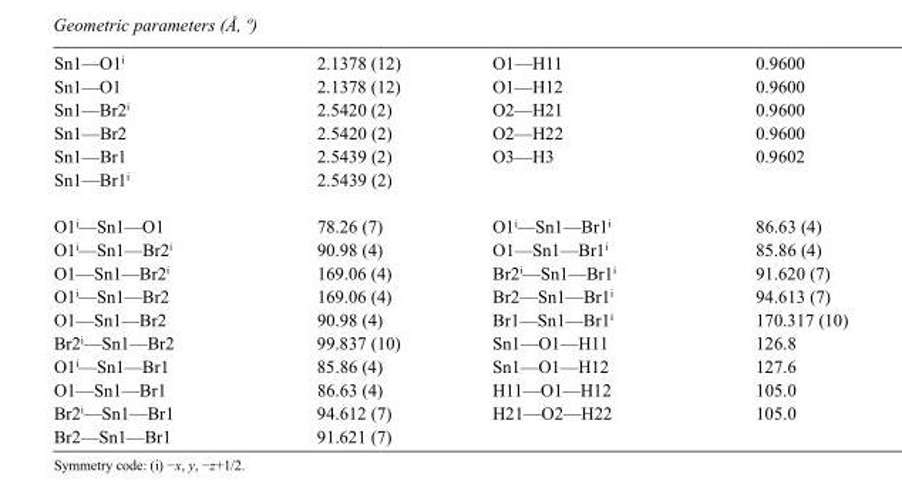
<table><tbody><tr><td>Sn1—O1<sup>i</sup></td><td>2.1378 (12)</td><td>O1—H11</td><td>0.9600</td></tr><tr><td>Sn1—O1</td><td>2.1378 (12)</td><td>O1—H12</td><td>0.9600</td></tr><tr><td>Sn1—Br2<sup>i</sup></td><td>2.5420 (2)</td><td>O2—H21</td><td>0.9600</td></tr><tr><td>Sn1—Br2</td><td>2.5420 (2)</td><td>O2—H22</td><td>0.9600</td></tr><tr><td>Sn1—Br1</td><td>2.5439 (2)</td><td>O3—H3</td><td>0.9602</td></tr><tr><td>Sn1—Br1<sup>i</sup></td><td>2.5439 (2)</td><td></td><td></td></tr><tr><td>O1<sup>i</sup>—Sn1—O1</td><td>78.26 (7)</td><td>O1<sup>i</sup>—Sn1—Br1<sup>i</sup></td><td>86.63 (4)</td></tr><tr><td>O1<sup>i</sup>—Sn1—Br2<sup>i</sup></td><td>90.98 (4)</td><td>O1—Sn1—Br1<sup>i</sup></td><td>85.86 (4)</td></tr><tr><td>O1—Sn1—Br2<sup>i</sup></td><td>169.06 (4)</td><td>Br2<sup>i</sup>—Sn1—Br1<sup>i</sup></td><td>91.620 (7)</td></tr><tr><td>O1<sup>i</sup>—Sn1—Br2</td><td>169.06 (4)</td><td>Br2—Sn1—Br1<sup>i</sup></td><td>94.613 (7)</td></tr><tr><td>O1—Sn1—Br2</td><td>90.98 (4)</td><td>Br1—Sn1—Br1<sup>i</sup></td><td>170.317 (10)</td></tr><tr><td>Br2<sup>i</sup>—Sn1—Br2</td><td>99.837 (10)</td><td>Sn1—O1—H11</td><td>126.8</td></tr><tr><td>O1<sup>i</sup>—Sn1—Br1</td><td>85.86 (4)</td><td>Sn1—O1—H12</td><td>127.6</td></tr><tr><td>O1—Sn1—Br1</td><td>86.63 (4)</td><td>H11—O1—H12</td><td>105.0</td></tr><tr><td>Br2<sup>i</sup>—Sn1—Br1</td><td>94.612 (7)</td><td>H21—O2—H22</td><td>105.0</td></tr><tr><td>Br2—Sn1—Br1</td><td>91.621 (7)</td><td></td><td></td></tr></tbody></table>